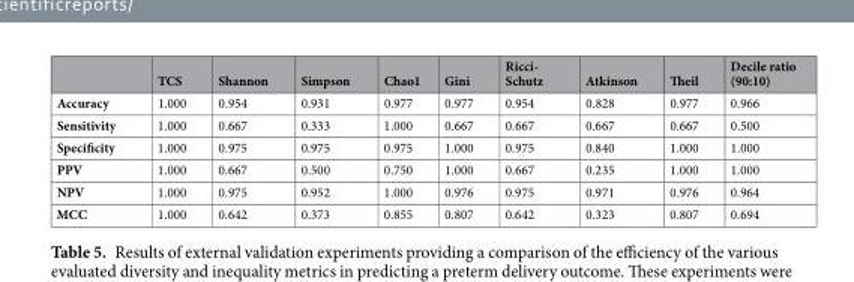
<table><thead><tr><td></td><td>TCS</td><td>Shannon</td><td>Simpson</td><td>Chao1</td><td>Gini</td><td>Ricci- Schutz</td><td>Atkinson</td><td>Theil</td><td>Decile ratio (90:10)</td></tr></thead><tbody><tr><td>Accuracy</td><td>1.000</td><td>0.954</td><td>0.931</td><td>0.977</td><td>0.977</td><td>0.954</td><td>0.828</td><td>0.977</td><td>0.966</td></tr><tr><td>Sensitivity</td><td>1.000</td><td>0.667</td><td>0.333</td><td>1.000</td><td>0.667</td><td>0.667</td><td>0.667</td><td>0.667</td><td>0.500</td></tr><tr><td>Specificity</td><td>1.000</td><td>0.975</td><td>0.975</td><td>0.975</td><td>1.000</td><td>0.975</td><td>0.840</td><td>1.000</td><td>1.000</td></tr><tr><td>PPV</td><td>1.000</td><td>0.667</td><td>0.500</td><td>0.750</td><td>1.000</td><td>0.667</td><td>0.235</td><td>1.000</td><td>1.000</td></tr><tr><td>NPV</td><td>1.000</td><td>0.975</td><td>0.952</td><td>1.000</td><td>0.976</td><td>0.975</td><td>0.971</td><td>0.976</td><td>0.964</td></tr><tr><td>MCC</td><td>1.000</td><td>0.642</td><td>0.373</td><td>0.855</td><td>0.807</td><td>0.642</td><td>0.323</td><td>0.807</td><td>0.694</td></tr></tbody></table>